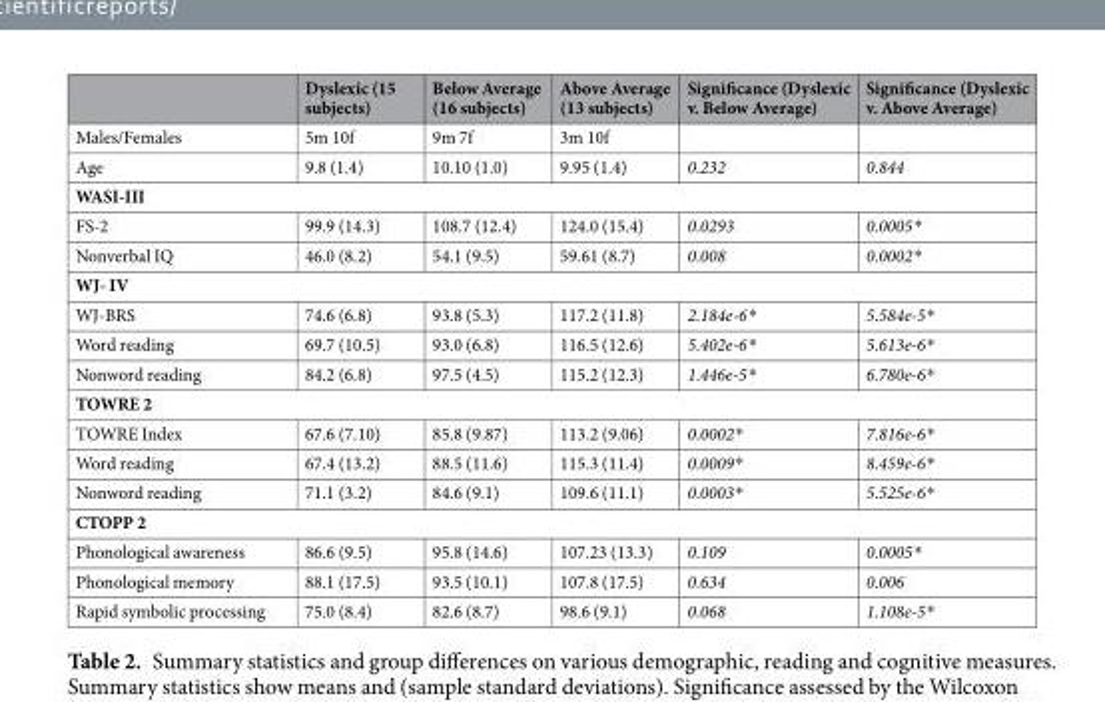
<table><thead><tr><td></td><td>Dyslexic (15 subjects)</td><td>Below Average (16 subjects)</td><td>Above Average (13 subjects)</td><td>Significance (Dyslexic v. Below Average)</td><td>Significance (Dyslexic v. Above Average)</td></tr></thead><tbody><tr><td>Males/Females</td><td>5m 10f</td><td>9m 7f</td><td>3m 10f</td><td></td><td></td></tr><tr><td>Age</td><td>9.8 (1.4)</td><td>10.10 (1.0)</td><td>9.95 (1.4)</td><td>0.232</td><td>0.844</td></tr><tr><td colspan="6">WASI-III</td></tr><tr><td>FS-2</td><td>99.9 (14.3)</td><td>108.7 (12.4)</td><td>124.0 (15.4)</td><td>0.0293</td><td>0.0005*</td></tr><tr><td>Nonverbal IQ</td><td>46.0 (8.2)</td><td>54.1 (9.5)</td><td>59.61 (8.7)</td><td>0.008</td><td>0.0002*</td></tr><tr><td colspan="6">WJ- IV</td></tr><tr><td>WJ-BRS</td><td>74.6 (6.8)</td><td>93.8 (5.3)</td><td>117.2 (11.8)</td><td>2.184e-6*</td><td>5.584e-5*</td></tr><tr><td>Word reading</td><td>69.7 (10.5)</td><td>93.0 (6.8)</td><td>116.5 (12.6)</td><td>5.402e-6*</td><td>5.613e-6*</td></tr><tr><td>Nonword reading</td><td>84.2 (6.8)</td><td>97.5 (4.5)</td><td>115.2 (12.3)</td><td>1.446e-5*</td><td>6.780e-6*</td></tr><tr><td colspan="6">TOWRE 2</td></tr><tr><td>TOWRE Index</td><td>67.6 (7.10)</td><td>85.8 (9.87)</td><td>113.2 (9.06)</td><td>0.0002*</td><td>7.816e-6*</td></tr><tr><td>Word reading</td><td>67.4 (13.2)</td><td>88.5 (11.6)</td><td>115.3 (11.4)</td><td>0.0009*</td><td>8.459e-6*</td></tr><tr><td>Nonword reading</td><td>71.1 (3.2)</td><td>84.6 (9.1)</td><td>109.6 (11.1)</td><td>0.0003*</td><td>5.525e-6*</td></tr><tr><td colspan="6">CTOPP 2</td></tr><tr><td>Phonological awareness</td><td>86.6 (9.5)</td><td>95.8 (14.6)</td><td>107.23 (13.3)</td><td>0.109</td><td>0.0005*</td></tr><tr><td>Phonological memory</td><td>88.1 (17.5)</td><td>93.5 (10.1)</td><td>107.8 (17.5)</td><td>0.634</td><td>0.006</td></tr><tr><td>Rapid symbolic processing</td><td>75.0 (8.4)</td><td>82.6 (8.7)</td><td>98.6 (9.1)</td><td>0.068</td><td>1.108e-5*</td></tr></tbody></table>